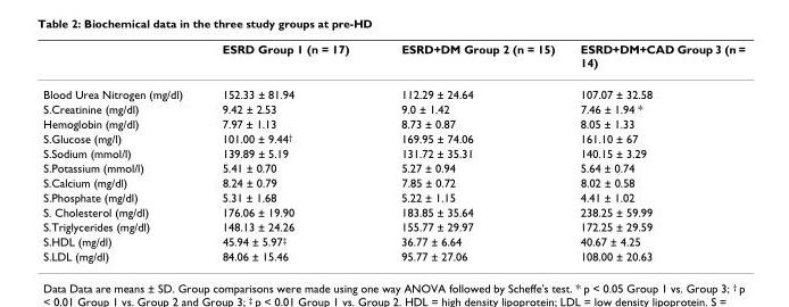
<table><thead><tr><td></td><td>ESRD Group 1 (n = 17)</td><td>ESRD+DM Group 2 (n = 15)</td><td>ESRD+DM+CAD Group 3 (n = 14)</td></tr></thead><tbody><tr><td>Blood Urea Nitrogen (mg/dl)</td><td>152.33 ± 81.94</td><td>112.29 ± 24.64</td><td>107.07 ± 32.58</td></tr><tr><td>S.Creatinine (mg/dl)</td><td>9.42 ± 2.53</td><td>9.0 ± 1.42</td><td>7.46 ± 1.94 *</td></tr><tr><td>Hemoglobin (mg/dl)</td><td>7.97 ± 1.13</td><td>8.73 ± 0.87</td><td>8.05 ± 1.33</td></tr><tr><td>S.Glucose (mg/l)</td><td>101.00 ± 9.44<sup>†</sup></td><td>169.95 ± 74.06</td><td>161.10 ± 67</td></tr><tr><td>S.Sodium (mmol/l)</td><td>139.89 ± 5.19</td><td>131.72 ± 35.31</td><td>140.15 ± 3.29</td></tr><tr><td>S.Potassium (mmol/l)</td><td>5.41 ± 0.70</td><td>5.27 ± 0.94</td><td>5.64 ± 0.74</td></tr><tr><td>S.Calcium (mg/dl)</td><td>8.24 ± 0.79</td><td>7.85 ± 0.72</td><td>8.02 ± 0.58</td></tr><tr><td>S.Phosphate (mg/dl)</td><td>5.31 ± 1.68</td><td>5.22 ± 1.15</td><td>4.41 ± 1.02</td></tr><tr><td>S. Cholesterol (mg/dl)</td><td>176.06 ± 19.90</td><td>183.85 ± 35.64</td><td>238.25 ± 59.99</td></tr><tr><td>S.Triglycerides (mg/dl)</td><td>148.13 ± 24.26</td><td>155.77 ± 29.97</td><td>172.25 ± 29.59</td></tr><tr><td>S.HDL (mg/dl)</td><td>45.94 ± 5.97<sup>‡</sup></td><td>36.77 ± 6.64</td><td>40.67 ± 4.25</td></tr><tr><td>S.LDL (mg/dl)</td><td>84.06 ± 15.46</td><td>95.77 ± 27.06</td><td>108.00 ± 20.63</td></tr></tbody></table>